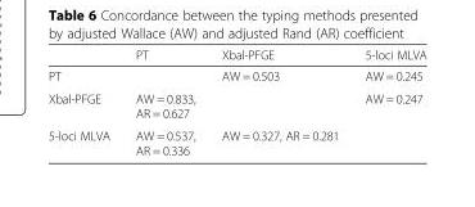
<table><thead><tr><td></td><td>PT</td><td>Xbal-PFGE</td><td>5-loci MLVA</td></tr></thead><tbody><tr><td>PT</td><td></td><td>AW = 0.503</td><td>AW = 0.245</td></tr><tr><td>Xbal-PFGE</td><td>AW = 0.833, AR = 0.627</td><td></td><td>AW = 0.247</td></tr><tr><td>5-loci MLVA</td><td>AW = 0.537, AR = 0.336</td><td>AW = 0.327, AR = 0.281</td><td></td></tr></tbody></table>